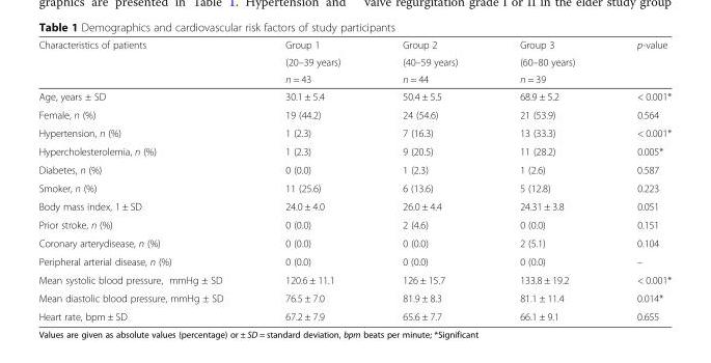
<table><thead><tr><td rowspan="3">Characteristics of patients</td><td rowspan="3">Group 1 (20–39 years) n = 43</td><td rowspan="3">Group 2 (40–59 years) n = 44</td><td rowspan="3">Group 3 (60–80 years) n = 39</td><td rowspan="3">p-value</td></tr><tr></tr><tr></tr></thead><tbody><tr><td>Age, years ± SD</td><td>30.1 ± 5.4</td><td>50.4 ± 5.5</td><td>68.9 ± 5.2</td><td>&lt; 0.001*</td></tr><tr><td>Female, n (%)</td><td>19 (44.2)</td><td>24 (54.6)</td><td>21 (53.9)</td><td>0.564</td></tr><tr><td>Hypertension, n (%)</td><td>1 (2.3)</td><td>7 (16.3)</td><td>13 (33.3)</td><td>&lt; 0.001*</td></tr><tr><td>Hypercholesterolemia, n (%)</td><td>1 (2.3)</td><td>9 (20.5)</td><td>11 (28.2)</td><td>0.005*</td></tr><tr><td>Diabetes, n (%)</td><td>0 (0.0)</td><td>1 (2.3)</td><td>1 (2.6)</td><td>0.587</td></tr><tr><td>Smoker, n (%)</td><td>11 (25.6)</td><td>6 (13.6)</td><td>5 (12.8)</td><td>0.223</td></tr><tr><td>Body mass index, 1 ± SD</td><td>24.0 ± 4.0</td><td>26.0 ± 4.4</td><td>24.31 ± 3.8</td><td>0.051</td></tr><tr><td>Prior stroke, n (%)</td><td>0 (0.0)</td><td>2 (4.6)</td><td>0 (0.0)</td><td>0.151</td></tr><tr><td>Coronary arterydisease, n (%)</td><td>0 (0.0)</td><td>0 (0.0)</td><td>2 (5.1)</td><td>0.104</td></tr><tr><td>Peripheral arterial disease, n (%)</td><td>0 (0.0)</td><td>0 (0.0)</td><td>0 (0.0)</td><td>–</td></tr><tr><td>Mean systolic blood pressure, mmHg ± SD</td><td>120.6 ± 11.1</td><td>126 ± 15.7</td><td>133.8 ± 19.2</td><td>&lt; 0.001*</td></tr><tr><td>Mean diastolic blood pressure, mmHg ± SD</td><td>76.5 ± 7.0</td><td>81.9 ± 8.3</td><td>81.1 ± 11.4</td><td>0.014*</td></tr><tr><td>Heart rate, bpm ± SD</td><td>67.2 ± 7.9</td><td>65.6 ± 7.7</td><td>66.1 ± 9.1</td><td>0.655</td></tr></tbody></table>